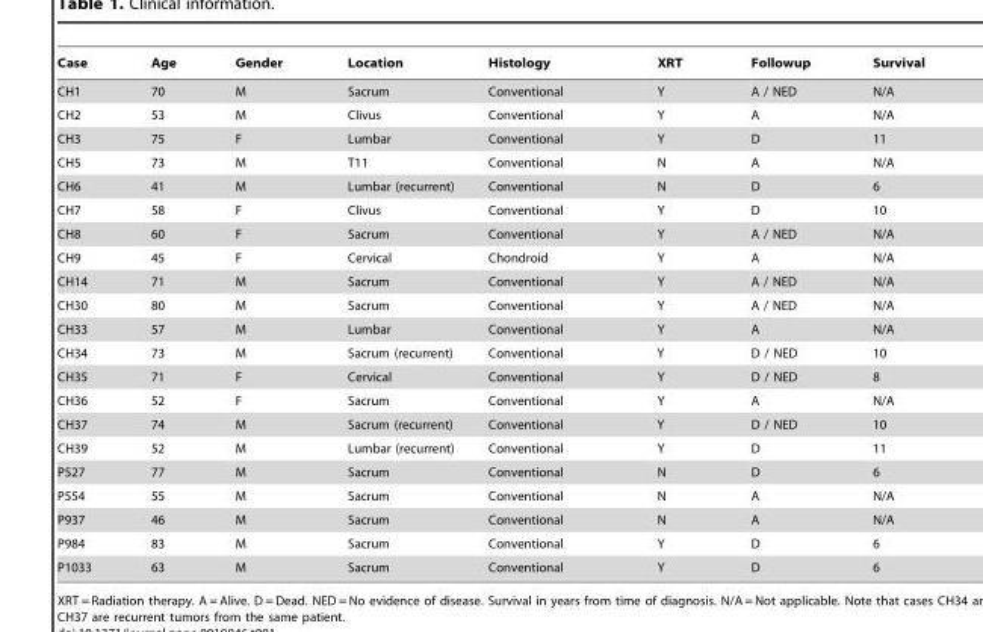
<table><thead><tr><td>Case</td><td>Age</td><td>Gender</td><td>Location</td><td>Histology</td><td>XRT</td><td>Followup</td><td>Survival</td></tr></thead><tbody><tr><td>CH1</td><td>70</td><td>M</td><td>Sacrum</td><td>Conventional</td><td>Y</td><td>A / NED</td><td>N/A</td></tr><tr><td>CH2</td><td>53</td><td>M</td><td>Clivus</td><td>Conventional</td><td>Y</td><td>A</td><td>N/A</td></tr><tr><td>CH3</td><td>75</td><td>F</td><td>Lumbar</td><td>Conventional</td><td>Y</td><td>D</td><td>11</td></tr><tr><td>CH5</td><td>73</td><td>M</td><td>T11</td><td>Conventional</td><td>N</td><td>A</td><td>N/A</td></tr><tr><td>CH6</td><td>41</td><td>M</td><td>Lumbar (recurrent)</td><td>Conventional</td><td>N</td><td>D</td><td>6</td></tr><tr><td>CH7</td><td>58</td><td>F</td><td>Clivus</td><td>Conventional</td><td>Y</td><td>D</td><td>10</td></tr><tr><td>CH8</td><td>60</td><td>F</td><td>Sacrum</td><td>Conventional</td><td>Y</td><td>A / NED</td><td>N/A</td></tr><tr><td>CH9</td><td>45</td><td>F</td><td>Cervical</td><td>Chondroid</td><td>Y</td><td>A</td><td>N/A</td></tr><tr><td>CH14</td><td>71</td><td>M</td><td>Sacrum</td><td>Conventional</td><td>Y</td><td>A / NED</td><td>N/A</td></tr><tr><td>CH30</td><td>80</td><td>M</td><td>Sacrum</td><td>Conventional</td><td>Y</td><td>A / NED</td><td>N/A</td></tr><tr><td>CH33</td><td>57</td><td>M</td><td>Lumbar</td><td>Conventional</td><td>Y</td><td>A</td><td>N/A</td></tr><tr><td>CH34</td><td>73</td><td>M</td><td>Sacrum (recurrent)</td><td>Conventional</td><td>Y</td><td>D / NED</td><td>10</td></tr><tr><td>CH35</td><td>71</td><td>F</td><td>Cervical</td><td>Conventional</td><td>Y</td><td>D / NED</td><td>8</td></tr><tr><td>CH36</td><td>52</td><td>F</td><td>Sacrum</td><td>Conventional</td><td>Y</td><td>A</td><td>N/A</td></tr><tr><td>CH37</td><td>74</td><td>M</td><td>Sacrum (recurrent)</td><td>Conventional</td><td>Y</td><td>D / NED</td><td>10</td></tr><tr><td>CH39</td><td>52</td><td>M</td><td>Lumbar (recurrent)</td><td>Conventional</td><td>Y</td><td>D</td><td>11</td></tr><tr><td>P527</td><td>77</td><td>M</td><td>Sacrum</td><td>Conventional</td><td>N</td><td>D</td><td>6</td></tr><tr><td>P554</td><td>55</td><td>M</td><td>Sacrum</td><td>Conventional</td><td>N</td><td>A</td><td>N/A</td></tr><tr><td>P937</td><td>46</td><td>M</td><td>Sacrum</td><td>Conventional</td><td>N</td><td>A</td><td>N/A</td></tr><tr><td>P984</td><td>83</td><td>M</td><td>Sacrum</td><td>Conventional</td><td>Y</td><td>D</td><td>6</td></tr><tr><td>P1033</td><td>63</td><td>M</td><td>Sacrum</td><td>Conventional</td><td>Y</td><td>D</td><td>6</td></tr></tbody></table>